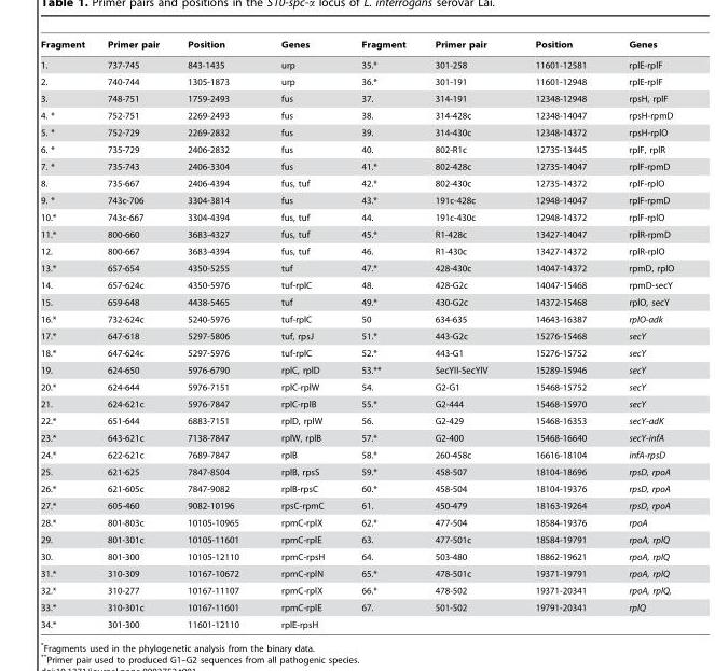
<table><thead><tr><td>Fragment</td><td>Primer pair</td><td>Position</td><td>Genes</td><td>Fragment</td><td>Primer pair</td><td>Position</td><td>Genes</td></tr></thead><tbody><tr><td>1.</td><td>737-745</td><td>843-1435</td><td>urp</td><td>35.*</td><td>301-258</td><td>11601-12581</td><td>rplE-rplF</td></tr><tr><td>2.</td><td>740-744</td><td>1305-1873</td><td>urp</td><td>36.*</td><td>301-191</td><td>11601-12948</td><td>rplE-rplF</td></tr><tr><td>3.</td><td>748-751</td><td>1759-2493</td><td>fus</td><td>37.</td><td>314-191</td><td>12348-12948</td><td>rpsH, rplF</td></tr><tr><td>4. *</td><td>752-751</td><td>2269-2493</td><td>fus</td><td>38.</td><td>314-428c</td><td>12348-14047</td><td>rpsH-rpmD</td></tr><tr><td>5. *</td><td>752-729</td><td>2269-2832</td><td>fus</td><td>39.</td><td>314-430c</td><td>12348-14372</td><td>rpsH-rplO</td></tr><tr><td>6. *</td><td>735-729</td><td>2406-2832</td><td>fus</td><td>40.</td><td>802-R1c</td><td>12735-13445</td><td>rplF, rplR</td></tr><tr><td>7. *</td><td>735-743</td><td>2406-3304</td><td>fus</td><td>41.*</td><td>802-428c</td><td>12735-14047</td><td>rplF-rpmD</td></tr><tr><td>8.</td><td>735-667</td><td>2406-4394</td><td>fus, tuf</td><td>42.*</td><td>802-430c</td><td>12735-14372</td><td>rplF-rplO</td></tr><tr><td>9. *</td><td>743c-706</td><td>3304-3814</td><td>fus</td><td>43.*</td><td>191c-428c</td><td>12948-14047</td><td>rplF-rpmD</td></tr><tr><td>10.*</td><td>743c-667</td><td>3304-4394</td><td>fus, tuf</td><td>44.</td><td>191c-430c</td><td>12948-14372</td><td>rplF-rplO</td></tr><tr><td>11.*</td><td>800-660</td><td>3683-4327</td><td>fus, tuf</td><td>45.*</td><td>R1-428c</td><td>13427-14047</td><td>rplR-rpmD</td></tr><tr><td>12.</td><td>800-667</td><td>3683-4394</td><td>fus, tuf</td><td>46.</td><td>R1-430c</td><td>13427-14372</td><td>rplR-rplO</td></tr><tr><td>13.*</td><td>657-654</td><td>4350-5255</td><td>tuf</td><td>47.*</td><td>428-430c</td><td>14047-14372</td><td>rpmD, rplO</td></tr><tr><td>14.</td><td>657-624c</td><td>4350-5976</td><td>tuf-rplC</td><td>48.</td><td>428-G2c</td><td>14047-15468</td><td>rpmD-secY</td></tr><tr><td>15.</td><td>659-648</td><td>4438-5465</td><td>tuf</td><td>49.*</td><td>430-G2c</td><td>14372-15468</td><td>rplO, secY</td></tr><tr><td>16.*</td><td>732-624c</td><td>5240-5976</td><td>tuf-rplC</td><td>50</td><td>634-635</td><td>14643-16387</td><td>rplO-adk</td></tr><tr><td>17.*</td><td>647-618</td><td>5297-5806</td><td>tuf, rpsJ</td><td>51.*</td><td>443-G2c</td><td>15276-15468</td><td>secY</td></tr><tr><td>18.*</td><td>647-624c</td><td>5297-5976</td><td>tuf-rplC</td><td>52.*</td><td>443-G1</td><td>15276-15752</td><td>secY</td></tr><tr><td>19.</td><td>624-650</td><td>5976-6790</td><td>rplC, rplD</td><td>53.**</td><td>SecYII-SecYIV</td><td>15289-15946</td><td>secY</td></tr><tr><td>20.*</td><td>624-644</td><td>5976-7151</td><td>rplC-rplW</td><td>54.</td><td>G2-G1</td><td>15468-15752</td><td>secY</td></tr><tr><td>21.</td><td>624-621c</td><td>5976-7847</td><td>rplC-rplB</td><td>55.*</td><td>G2-444</td><td>15468-15970</td><td>secY</td></tr><tr><td>22.*</td><td>651-644</td><td>6883-7151</td><td>rplD, rplW</td><td>56.</td><td>G2-429</td><td>15468-16353</td><td>secY-adK</td></tr><tr><td>23.*</td><td>643-621c</td><td>7138-7847</td><td>rplW, rplB</td><td>57.*</td><td>G2-400</td><td>15468-16640</td><td>secY-infA</td></tr><tr><td>24.*</td><td>622-621c</td><td>7689-7847</td><td>rplB</td><td>58.*</td><td>260-458c</td><td>16616-18104</td><td>infA-rpsD</td></tr><tr><td>25.</td><td>621-625</td><td>7847-8504</td><td>rplB, rpsS</td><td>59.*</td><td>458-507</td><td>18104-18696</td><td>rpsD, rpoA</td></tr><tr><td>26.*</td><td>621-605c</td><td>7847-9082</td><td>rplB-rpsC</td><td>60.*</td><td>458-504</td><td>18104-19376</td><td>rpsD, rpoA</td></tr><tr><td>27.*</td><td>605-460</td><td>9082-10196</td><td>rpsC-rpmC</td><td>61.</td><td>450-479</td><td>18163-19264</td><td>rpsD, rpoA</td></tr><tr><td>28.*</td><td>801-803c</td><td>10105-10965</td><td>rpmC-rplX</td><td>62.*</td><td>477-504</td><td>18584-19376</td><td>rpoA</td></tr><tr><td>29.</td><td>801-301c</td><td>10105-11601</td><td>rpmC-rplE</td><td>63.</td><td>477-501c</td><td>18584-19791</td><td>rpoA, rplQ</td></tr><tr><td>30.</td><td>801-300</td><td>10105-12110</td><td>rpmC-rpsH</td><td>64.</td><td>503-480</td><td>18862-19621</td><td>rpoA, rplQ</td></tr><tr><td>31.*</td><td>310-309</td><td>10167-10672</td><td>rpmC-rplN</td><td>65.*</td><td>478-501c</td><td>19371-19791</td><td>rpoA, rplQ</td></tr><tr><td>32.*</td><td>310-277</td><td>10167-11107</td><td>rpmC-rplX</td><td>66.*</td><td>478-502</td><td>19371-20341</td><td>rpoA, rplQ,</td></tr><tr><td>33.*</td><td>310-301c</td><td>10167-11601</td><td>rpmC-rplE</td><td>67.</td><td>501-502</td><td>19791-20341</td><td>rplQ</td></tr><tr><td>34.*</td><td>301-300</td><td>11601-12110</td><td>rplE-rpsH</td><td></td><td></td><td></td><td></td></tr></tbody></table>